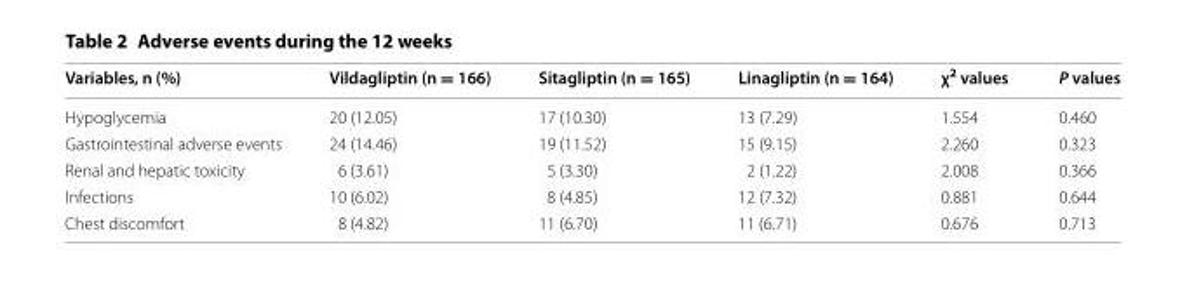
<table><thead><tr><td>Variables, n (%)</td><td>Vildagliptin (n = 166)</td><td>Sitagliptin (n = 165)</td><td>Linagliptin (n = 164)</td><td>χ<sup>2</sup> values</td><td>P values</td></tr></thead><tbody><tr><td>Hypoglycemia</td><td>20 (12.05)</td><td>17 (10.30)</td><td>13 (7.29)</td><td>1.554</td><td>0.460</td></tr><tr><td>Gastrointestinal adverse events</td><td>24 (14.46)</td><td>19 (11.52)</td><td>15 (9.15)</td><td>2.260</td><td>0.323</td></tr><tr><td>Renal and hepatic toxicity</td><td>6 (3.61)</td><td>5 (3.30)</td><td>2 (1.22)</td><td>2.008</td><td>0.366</td></tr><tr><td>Infections</td><td>10 (6.02)</td><td>8 (4.85)</td><td>12 (7.32)</td><td>0.881</td><td>0.644</td></tr><tr><td>Chest discomfort</td><td>8 (4.82)</td><td>11 (6.70)</td><td>11 (6.71)</td><td>0.676</td><td>0.713</td></tr></tbody></table>